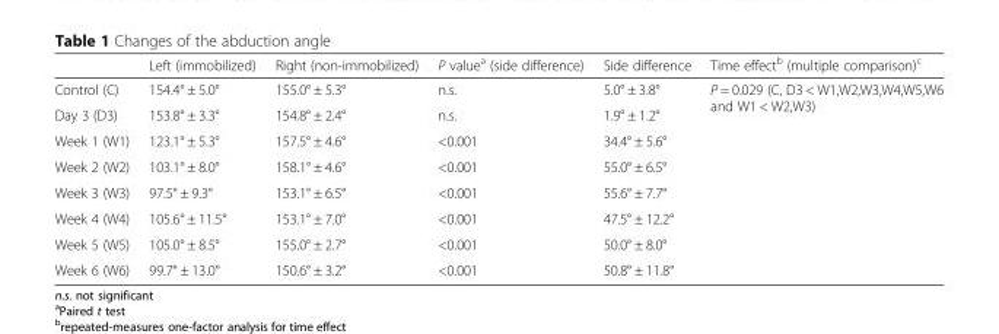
<table><thead><tr><td></td><td>Left (immobilized)</td><td>Right (non-immobilized)</td><td>P value<sup>a</sup> (side difference)</td><td>Side difference</td><td>Time effect<sup>b</sup> (multiple comparison)<sup>c</sup></td></tr></thead><tbody><tr><td>Control (C)</td><td>154.4° ± 5.0°</td><td>155.0° ± 5.3°</td><td>n.s.</td><td>5.0° ± 3.8°</td><td rowspan="8">P = 0.029 (C, D3 &lt; W1,W2,W3,W4,W5,W6 and W1 &lt; W2,W3)</td></tr><tr><td>Day 3 (D3)</td><td>153.8° ± 3.3°</td><td>154.8° ± 2.4°</td><td>n.s.</td><td>1.9° ± 1.2°</td></tr><tr><td>Week 1 (W1)</td><td>123.1° ± 5.3°</td><td>157.5° ± 4.6°</td><td>&lt;0.001</td><td>34.4° ± 5.6°</td></tr><tr><td>Week 2 (W2)</td><td>103.1° ± 8.0°</td><td>158.1° ± 4.6°</td><td>&lt;0.001</td><td>55.0° ± 6.5°</td></tr><tr><td>Week 3 (W3)</td><td>97.5° ± 9.3°</td><td>153.1° ± 6.5°</td><td>&lt;0.001</td><td>55.6° ± 7.7°</td></tr><tr><td>Week 4 (W4)</td><td>105.6° ± 11.5°</td><td>153.1° ± 7.0°</td><td>&lt;0.001</td><td>47.5° ± 12.2°</td></tr><tr><td>Week 5 (W5)</td><td>105.0° ± 8.5°</td><td>155.0° ± 2.7°</td><td>&lt;0.001</td><td>50.0° ± 8.0°</td></tr><tr><td>Week 6 (W6)</td><td>99.7° ± 13.0°</td><td>150.6° ± 3.2°</td><td>&lt;0.001</td><td>50.8° ± 11.8°</td></tr></tbody></table>